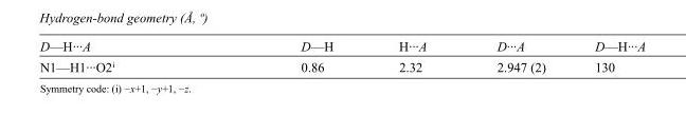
<table><tbody><tr><td>D—H···A</td><td>D—H</td><td>H···A</td><td>D···A</td><td>D—H···A</td></tr><tr><td>N1—H1···O2<sup>i</sup></td><td>0.86</td><td>2.32</td><td>2.947 (2)</td><td>130</td></tr></tbody></table>